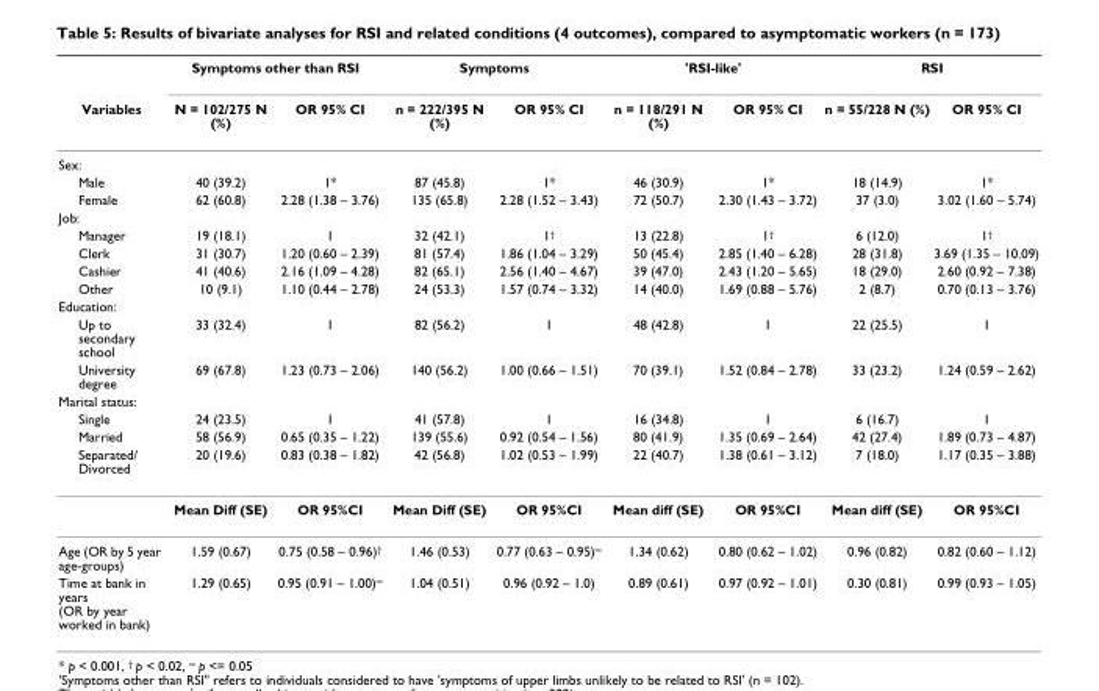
<table><thead><tr><td rowspan="2">Variables</td><td colspan="2">Symptoms other than RSI</td><td colspan="2">Symptoms</td><td colspan="2">&#x27;RSI-like&#x27;</td><td colspan="2">RSI</td></tr><tr><td>N = 102/275 N (%)</td><td>OR 95% CI</td><td>n = 222/395 N (%)</td><td>OR 95% CI</td><td>n = 118/291 N (%)</td><td>OR 95% CI</td><td>n = 55/228 N (%)</td><td>OR 95% CI</td></tr></thead><tbody><tr><td colspan="9">Sex:</td></tr><tr><td>Male</td><td>40 (39.2)</td><td>1*</td><td>87 (45.8)</td><td>1*</td><td>46 (30.9)</td><td>1*</td><td>18 (14.9)</td><td>1*</td></tr><tr><td>Female</td><td>62 (60.8)</td><td>2.28 (1.38 – 3.76)</td><td>135 (65.8)</td><td>2.28 (1.52 – 3.43)</td><td>72 (50.7)</td><td>2.30 (1.43 – 3.72)</td><td>37 (3.0)</td><td>3.02 (1.60 – 5.74)</td></tr><tr><td colspan="9">Job:</td></tr><tr><td>Manager</td><td>19 (18.1)</td><td>1</td><td>32 (42.1)</td><td>1<sup>†</sup></td><td>13 (22.8)</td><td>1<sup>†</sup></td><td>6 (12.0)</td><td>1<sup>†</sup></td></tr><tr><td>Clerk</td><td>31 (30.7)</td><td>1.20 (0.60 – 2.39)</td><td>81 (57.4)</td><td>1.86 (1.04 – 3.29)</td><td>50 (45.4)</td><td>2.85 (1.40 – 6.28)</td><td>28 (31.8)</td><td>3.69 (1.35 – 10.09)</td></tr><tr><td>Cashier</td><td>41 (40.6)</td><td>2.16 (1.09 – 4.28)</td><td>82 (65.1)</td><td>2.56 (1.40 – 4.67)</td><td>39 (47.0)</td><td>2.43 (1.20 – 5.65)</td><td>18 (29.0)</td><td>2.60 (0.92 – 7.38)</td></tr><tr><td>Other</td><td>10 (9.1)</td><td>1.10 (0.44 – 2.78)</td><td>24 (53.3)</td><td>1.57 (0.74 – 3.32)</td><td>14 (40.0)</td><td>1.69 (0.88 – 5.76)</td><td>2 (8.7)</td><td>0.70 (0.13 – 3.76)</td></tr><tr><td colspan="9">Education:</td></tr><tr><td>Up to secondary school</td><td>33 (32.4)</td><td>1</td><td>82 (56.2)</td><td>1</td><td>48 (42.8)</td><td>1</td><td>22 (25.5)</td><td>1</td></tr><tr><td>University degree</td><td>69 (67.8)</td><td>1.23 (0.73 – 2.06)</td><td>140 (56.2)</td><td>1.00 (0.66 – 1.51)</td><td>70 (39.1)</td><td>1.52 (0.84 – 2.78)</td><td>33 (23.2)</td><td>1.24 (0.59 – 2.62)</td></tr><tr><td colspan="9">Marital status:</td></tr><tr><td>Single</td><td>24 (23.5)</td><td>1</td><td>41 (57.8)</td><td>1</td><td>16 (34.8)</td><td>1</td><td>6 (16.7)</td><td>1</td></tr><tr><td>Married</td><td>58 (56.9)</td><td>0.65 (0.35 – 1.22)</td><td>139 (55.6)</td><td>0.92 (0.54 – 1.56)</td><td>80 (41.9)</td><td>1.35 (0.69 – 2.64)</td><td>42 (27.4)</td><td>1.89 (0.73 – 4.87)</td></tr><tr><td rowspan="2">Separated/ Divorced</td><td>20 (19.6)</td><td>0.83 (0.38 – 1.82)</td><td>42 (56.8)</td><td>1.02 (0.53 – 1.99)</td><td>22 (40.7)</td><td>1.38 (0.61 – 3.12)</td><td>7 (18.0)</td><td>1.17 (0.35 – 3.88)</td></tr><tr><td>Mean Diff (SE)</td><td>OR 95%CI</td><td>Mean Diff (SE)</td><td>OR 95%CI</td><td>Mean diff (SE)</td><td>OR 95%CI</td><td>Mean diff (SE)</td><td>OR 95%CI</td></tr><tr><td>Age (OR by 5 year age-groups)</td><td>1.59 (0.67)</td><td>0.75 (0.58 – 0.96)<sup>†</sup></td><td>1.46 (0.53)</td><td>0.77 (0.63 – 0.95)<sup>∞</sup></td><td>1.34 (0.62)</td><td>0.80 (0.62 – 1.02)</td><td>0.96 (0.82)</td><td>0.82 (0.60 – 1.12)</td></tr><tr><td>Time at bank in years (OR by year worked in bank)</td><td>1.29 (0.65)</td><td>0.95 (0.91 – 1.00)<sup>∞</sup></td><td>1.04 (0.51)</td><td>0.96 (0.92 – 1.0)</td><td>0.89 (0.61)</td><td>0.97 (0.92 – 1.01)</td><td>0.30 (0.81)</td><td>0.99 (0.93 – 1.05)</td></tr></tbody></table>